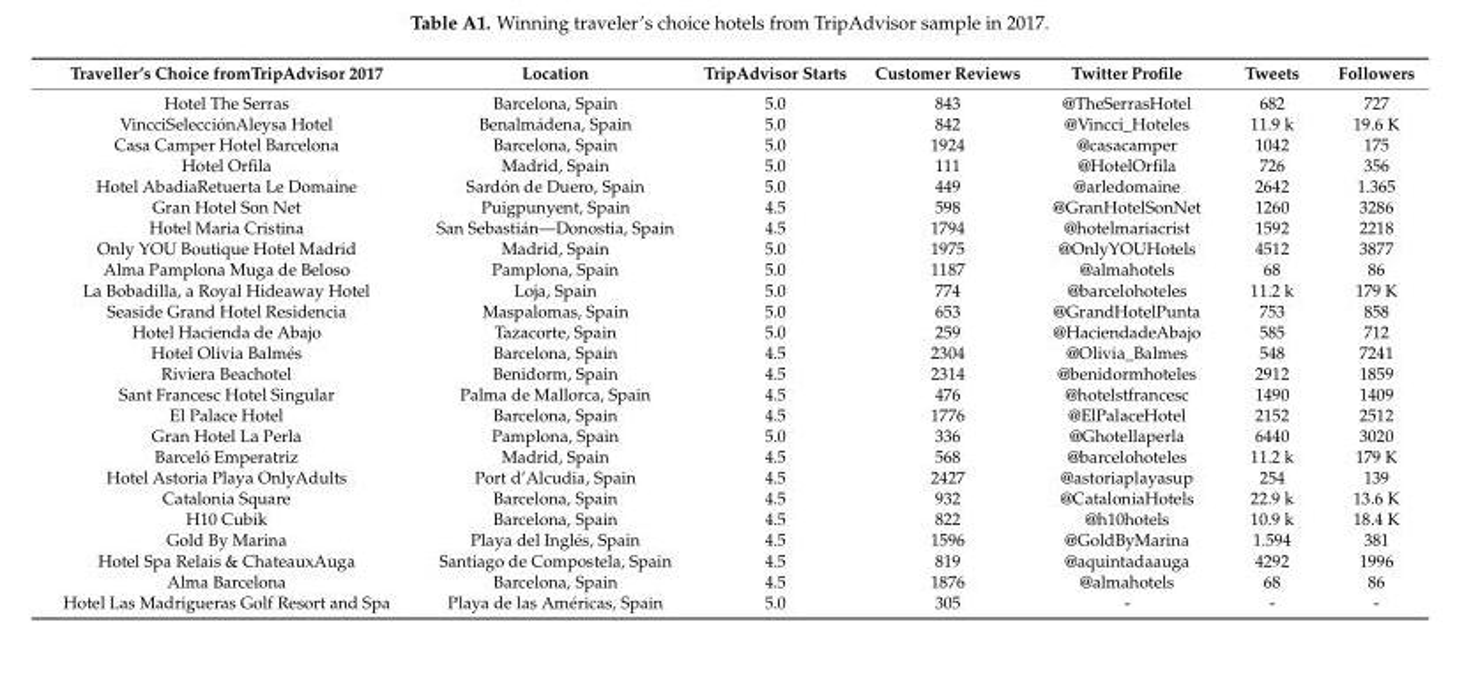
<table><thead><tr><td>Traveller’s Choice fromTripAdvisor 2017</td><td>Location</td><td>TripAdvisor Starts</td><td>Customer Reviews</td><td>Twitter Profile</td><td>Tweets</td><td>Followers</td></tr></thead><tbody><tr><td>Hotel The Serras</td><td>Barcelona, Spain</td><td>5.0</td><td>843</td><td>@TheSerrasHotel</td><td>682</td><td>727</td></tr><tr><td>VincciSelecciónAleysa Hotel</td><td>Benalmádena, Spain</td><td>5.0</td><td>842</td><td>@Vincci_Hoteles</td><td>11.9 k</td><td>19.6 K</td></tr><tr><td>Casa Camper Hotel Barcelona</td><td>Barcelona, Spain</td><td>5.0</td><td>1924</td><td>@casacamper</td><td>1042</td><td>175</td></tr><tr><td>Hotel Orfila</td><td>Madrid, Spain</td><td>5.0</td><td>111</td><td>@HotelOrfila</td><td>726</td><td>356</td></tr><tr><td>Hotel AbadiaRetuerta Le Domaine</td><td>Sardón de Duero, Spain</td><td>5.0</td><td>449</td><td>@arledomaine</td><td>2642</td><td>1.365</td></tr><tr><td>Gran Hotel Son Net</td><td>Puigpunyent, Spain</td><td>4.5</td><td>598</td><td>@GranHotelSonNet</td><td>1260</td><td>3286</td></tr><tr><td>Hotel Maria Cristina</td><td>San Sebastián—Donostia, Spain</td><td>4.5</td><td>1794</td><td>@hotelmariacrist</td><td>1592</td><td>2218</td></tr><tr><td>Only YOU Boutique Hotel Madrid</td><td>Madrid, Spain</td><td>5.0</td><td>1975</td><td>@OnlyYOUHotels</td><td>4512</td><td>3877</td></tr><tr><td>Alma Pamplona Muga de Beloso</td><td>Pamplona, Spain</td><td>5.0</td><td>1187</td><td>@almahotels</td><td>68</td><td>86</td></tr><tr><td>La Bobadilla, a Royal Hideaway Hotel</td><td>Loja, Spain</td><td>5.0</td><td>774</td><td>@barcelohoteles</td><td>11.2 k</td><td>179 K</td></tr><tr><td>Seaside Grand Hotel Residencia</td><td>Maspalomas, Spain</td><td>5.0</td><td>653</td><td>@GrandHotelPunta</td><td>753</td><td>858</td></tr><tr><td>Hotel Hacienda de Abajo</td><td>Tazacorte, Spain</td><td>5.0</td><td>259</td><td>@HaciendadeAbajo</td><td>585</td><td>712</td></tr><tr><td>Hotel Olivia Balmés</td><td>Barcelona, Spain</td><td>4.5</td><td>2304</td><td>@Olivia_Balmes</td><td>548</td><td>7241</td></tr><tr><td>Riviera Beachotel</td><td>Benidorm, Spain</td><td>4.5</td><td>2314</td><td>@benidormhoteles</td><td>2912</td><td>1859</td></tr><tr><td>Sant Francesc Hotel Singular</td><td>Palma de Mallorca, Spain</td><td>4.5</td><td>476</td><td>@hotelstfrancesc</td><td>1490</td><td>1409</td></tr><tr><td>El Palace Hotel</td><td>Barcelona, Spain</td><td>4.5</td><td>1776</td><td>@ElPalaceHotel</td><td>2152</td><td>2512</td></tr><tr><td>Gran Hotel La Perla</td><td>Pamplona, Spain</td><td>5.0</td><td>336</td><td>@Ghotellaperla</td><td>6440</td><td>3020</td></tr><tr><td>Barceló Emperatriz</td><td>Madrid, Spain</td><td>4.5</td><td>568</td><td>@barcelohoteles</td><td>11.2 k</td><td>179 K</td></tr><tr><td>Hotel Astoria Playa OnlyAdults</td><td>Port d’Alcudia, Spain</td><td>4.5</td><td>2427</td><td>@astoriaplayasup</td><td>254</td><td>139</td></tr><tr><td>Catalonia Square</td><td>Barcelona, Spain</td><td>4.5</td><td>932</td><td>@CataloniaHotels</td><td>22.9 k</td><td>13.6 K</td></tr><tr><td>H10 Cubik</td><td>Barcelona, Spain</td><td>4.5</td><td>822</td><td>@h10hotels</td><td>10.9 k</td><td>18.4 K</td></tr><tr><td>Gold By Marina</td><td>Playa del Inglés, Spain</td><td>4.5</td><td>1596</td><td>@GoldByMarina</td><td>1.594</td><td>381</td></tr><tr><td>Hotel Spa Relais &amp; ChateauxAuga</td><td>Santiago de Compostela, Spain</td><td>4.5</td><td>819</td><td>@aquintadaauga</td><td>4292</td><td>1996</td></tr><tr><td>Alma Barcelona</td><td>Barcelona, Spain</td><td>4.5</td><td>1876</td><td>@almahotels</td><td>68</td><td>86</td></tr><tr><td>Hotel Las Madrigueras Golf Resort and Spa</td><td>Playa de las Américas, Spain</td><td>5.0</td><td>305</td><td>-</td><td>-</td><td>-</td></tr></tbody></table>